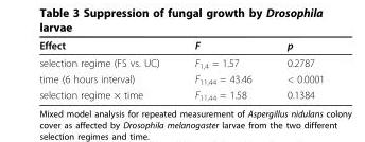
<table><thead><tr><td>Effect</td><td>F</td><td>p</td></tr></thead><tbody><tr><td>selection regime (FS vs. UC)</td><td>F<sub>1,4</sub> = 1.57</td><td>0.2787</td></tr><tr><td>time (6 hours interval)</td><td>F<sub>11,44</sub> = 43.46</td><td>&lt; 0.0001</td></tr><tr><td>selection regime × time</td><td>F<sub>11,44</sub> = 1.58</td><td>0.1384</td></tr></tbody></table>